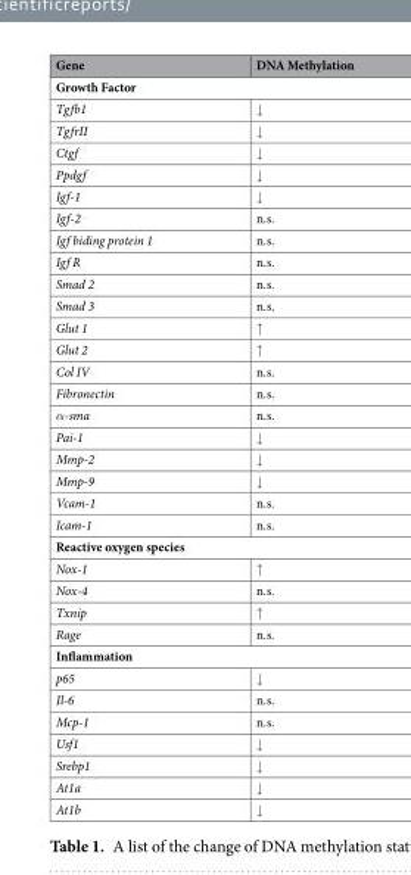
<table><thead><tr><td>Gene</td><td>DNA Methylation</td></tr></thead><tbody><tr><td colspan="2">Growth Factor</td></tr><tr><td>Tgfb1</td><td>↓</td></tr><tr><td>TgfrII</td><td>↓</td></tr><tr><td>Ctgf</td><td>↓</td></tr><tr><td>Ppdgf</td><td>↓</td></tr><tr><td>Igf-1</td><td>↓</td></tr><tr><td>Igf-2</td><td>n.s.</td></tr><tr><td>Igf biding protein 1</td><td>n.s.</td></tr><tr><td>Igf R</td><td>n.s.</td></tr><tr><td>Smad 2</td><td>n.s.</td></tr><tr><td>Smad 3</td><td>n.s.</td></tr><tr><td>Glut 1</td><td>↑</td></tr><tr><td>Glut 2</td><td>↑</td></tr><tr><td>Col IV</td><td>n.s.</td></tr><tr><td>Fibronectin</td><td>n.s.</td></tr><tr><td>α-sma</td><td>n.s.</td></tr><tr><td>Pai-1</td><td>↓</td></tr><tr><td>Mmp-2</td><td>↓</td></tr><tr><td>Mmp-9</td><td>↓</td></tr><tr><td>Vcam-1</td><td>n.s.</td></tr><tr><td>Icam-1</td><td>n.s.</td></tr><tr><td colspan="2">Reactive oxygen species</td></tr><tr><td>Nox-1</td><td>↑</td></tr><tr><td>Nox-4</td><td>n.s.</td></tr><tr><td>Txnip</td><td>↑</td></tr><tr><td>Rage</td><td>n.s.</td></tr><tr><td colspan="2">Inflammation</td></tr><tr><td>p65</td><td>↓</td></tr><tr><td>Il-6</td><td>n.s.</td></tr><tr><td>Mcp-1</td><td>n.s.</td></tr><tr><td>Usf1</td><td>↓</td></tr><tr><td>Srebp1</td><td>↓</td></tr><tr><td>At1a</td><td>↓</td></tr><tr><td>At1b</td><td>↓</td></tr></tbody></table>